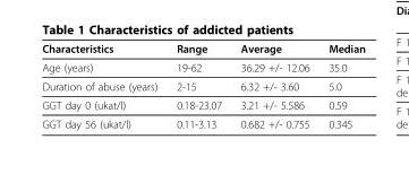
<table><thead><tr><td>Characteristics</td><td>Range</td><td>Average</td><td>Median</td></tr></thead><tbody><tr><td>Age (years)</td><td>19-62</td><td>36.29 +/- 12.06</td><td>35.0</td></tr><tr><td>Duration of abuse (years)</td><td>2-15</td><td>6.32 +/- 3.60</td><td>5.0</td></tr><tr><td>GGT day 0 (ukat/l)</td><td>0.18-23.07</td><td>3.21 +/- 5.586</td><td>0.59</td></tr><tr><td>GGT day 56 (ukat/l)</td><td>0.11-3.13</td><td>0.682 +/- 0.755</td><td>0.345</td></tr></tbody></table>